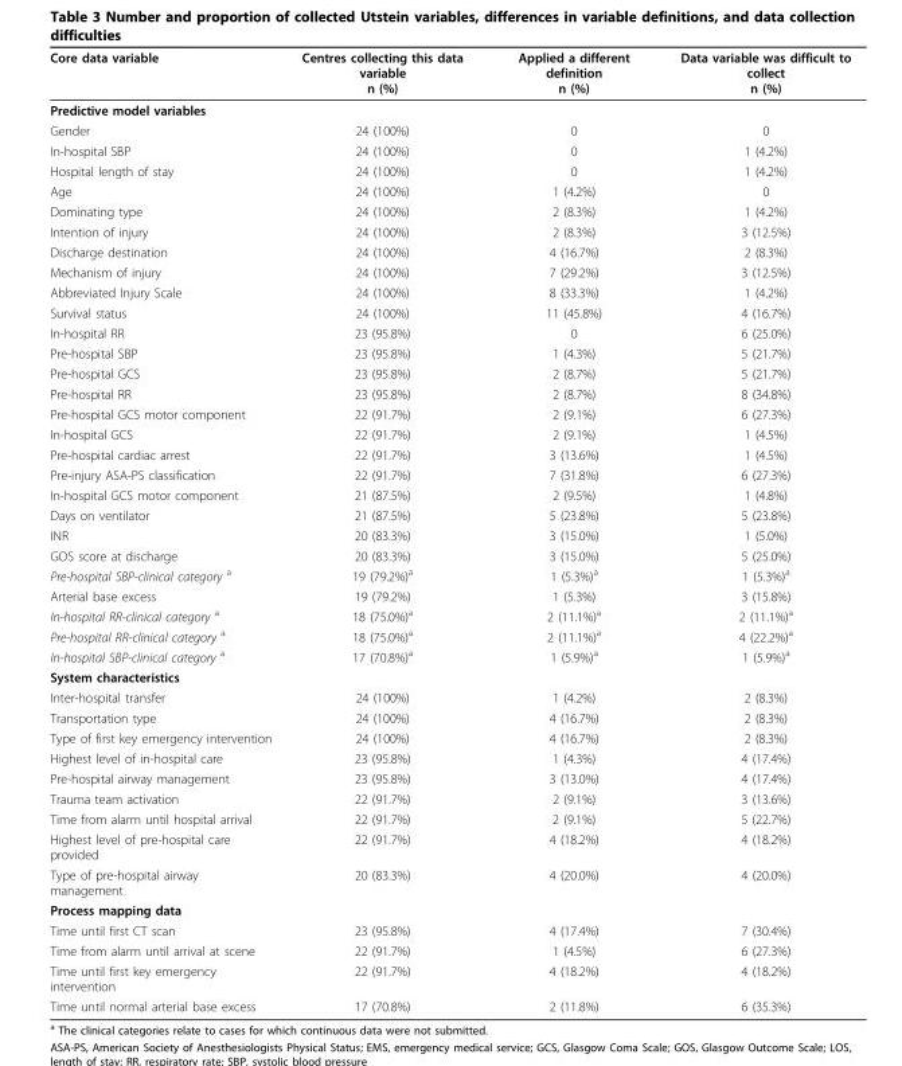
<table><thead><tr><td>Core data variable</td><td>Centres collecting this data variable n (%)</td><td>Applied a different definition n (%)</td><td>Data variable was difficult to collect n (%)</td></tr></thead><tbody><tr><td colspan="4">Predictive model variables</td></tr><tr><td>Gender</td><td>24 (100%)</td><td>0</td><td>0</td></tr><tr><td>In-hospital SBP</td><td>24 (100%)</td><td>0</td><td>1 (4.2%)</td></tr><tr><td>Hospital length of stay</td><td>24 (100%)</td><td>0</td><td>1 (4.2%)</td></tr><tr><td>Age</td><td>24 (100%)</td><td>1 (4.2%)</td><td>0</td></tr><tr><td>Dominating type</td><td>24 (100%)</td><td>2 (8.3%)</td><td>1 (4.2%)</td></tr><tr><td>Intention of injury</td><td>24 (100%)</td><td>2 (8.3%)</td><td>3 (12.5%)</td></tr><tr><td>Discharge destination</td><td>24 (100%)</td><td>4 (16.7%)</td><td>2 (8.3%)</td></tr><tr><td>Mechanism of injury</td><td>24 (100%)</td><td>7 (29.2%)</td><td>3 (12.5%)</td></tr><tr><td>Abbreviated Injury Scale</td><td>24 (100%)</td><td>8 (33.3%)</td><td>1 (4.2%)</td></tr><tr><td>Survival status</td><td>24 (100%)</td><td>11 (45.8%)</td><td>4 (16.7%)</td></tr><tr><td>In-hospital RR</td><td>23 (95.8%)</td><td>0</td><td>6 (25.0%)</td></tr><tr><td>Pre-hospital SBP</td><td>23 (95.8%)</td><td>1 (4.3%)</td><td>5 (21.7%)</td></tr><tr><td>Pre-hospital GCS</td><td>23 (95.8%)</td><td>2 (8.7%)</td><td>5 (21.7%)</td></tr><tr><td>Pre-hospital RR</td><td>23 (95.8%)</td><td>2 (8.7%)</td><td>8 (34.8%)</td></tr><tr><td>Pre-hospital GCS motor component</td><td>22 (91.7%)</td><td>2 (9.1%)</td><td>6 (27.3%)</td></tr><tr><td>In-hospital GCS</td><td>22 (91.7%)</td><td>2 (9.1%)</td><td>1 (4.5%)</td></tr><tr><td>Pre-hospital cardiac arrest</td><td>22 (91.7%)</td><td>3 (13.6%)</td><td>1 (4.5%)</td></tr><tr><td>Pre-injury ASA-PS classification</td><td>22 (91.7%)</td><td>7 (31.8%)</td><td>6 (27.3%)</td></tr><tr><td>In-hospital GCS motor component</td><td>21 (87.5%)</td><td>2 (9.5%)</td><td>1 (4.8%)</td></tr><tr><td>Days on ventilator</td><td>21 (87.5%)</td><td>5 (23.8%)</td><td>5 (23.8%)</td></tr><tr><td>INR</td><td>20 (83.3%)</td><td>3 (15.0%)</td><td>1 (5.0%)</td></tr><tr><td>GOS score at discharge</td><td>20 (83.3%)</td><td>3 (15.0%)</td><td>5 (25.0%)</td></tr><tr><td>Pre-hospital SBP-clinical category <sup>a</sup></td><td>19 (79.2%)<sup>a</sup></td><td>1 (5.3%)<sup>a</sup></td><td>1 (5.3%)<sup>a</sup></td></tr><tr><td>Arterial base excess</td><td>19 (79.2%)</td><td>1 (5.3%)</td><td>3 (15.8%)</td></tr><tr><td>In-hospital RR-clinical category <sup>a</sup></td><td>18 (75.0%)<sup>a</sup></td><td>2 (11.1%)<sup>a</sup></td><td>2 (11.1%)<sup>a</sup></td></tr><tr><td>Pre-hospital RR-clinical category <sup>a</sup></td><td>18 (75.0%)<sup>a</sup></td><td>2 (11.1%)<sup>a</sup></td><td>4 (22.2%)<sup>a</sup></td></tr><tr><td>In-hospital SBP-clinical category <sup>a</sup></td><td>17 (70.8%)<sup>a</sup></td><td>1 (5.9%)<sup>a</sup></td><td>1 (5.9%)<sup>a</sup></td></tr><tr><td colspan="4">System characteristics</td></tr><tr><td>Inter-hospital transfer</td><td>24 (100%)</td><td>1 (4.2%)</td><td>2 (8.3%)</td></tr><tr><td>Transportation type</td><td>24 (100%)</td><td>4 (16.7%)</td><td>2 (8.3%)</td></tr><tr><td>Type of first key emergency intervention</td><td>24 (100%)</td><td>4 (16.7%)</td><td>2 (8.3%)</td></tr><tr><td>Highest level of in-hospital care</td><td>23 (95.8%)</td><td>1 (4.3%)</td><td>4 (17.4%)</td></tr><tr><td>Pre-hospital airway management</td><td>23 (95.8%)</td><td>3 (13.0%)</td><td>4 (17.4%)</td></tr><tr><td>Trauma team activation</td><td>22 (91.7%)</td><td>2 (9.1%)</td><td>3 (13.6%)</td></tr><tr><td>Time from alarm until hospital arrival</td><td>22 (91.7%)</td><td>2 (9.1%)</td><td>5 (22.7%)</td></tr><tr><td>Highest level of pre-hospital care provided</td><td>22 (91.7%)</td><td>4 (18.2%)</td><td>4 (18.2%)</td></tr><tr><td>Type of pre-hospital airway management</td><td>20 (83.3%)</td><td>4 (20.0%)</td><td>4 (20.0%)</td></tr><tr><td colspan="4">Process mapping data</td></tr><tr><td>Time until first CT scan</td><td>23 (95.8%)</td><td>4 (17.4%)</td><td>7 (30.4%)</td></tr><tr><td>Time from alarm until arrival at scene</td><td>22 (91.7%)</td><td>1 (4.5%)</td><td>6 (27.3%)</td></tr><tr><td>Time until first key emergency intervention</td><td>22 (91.7%)</td><td>4 (18.2%)</td><td>4 (18.2%)</td></tr><tr><td>Time until normal arterial base excess</td><td>17 (70.8%)</td><td>2 (11.8%)</td><td>6 (35.3%)</td></tr></tbody></table>